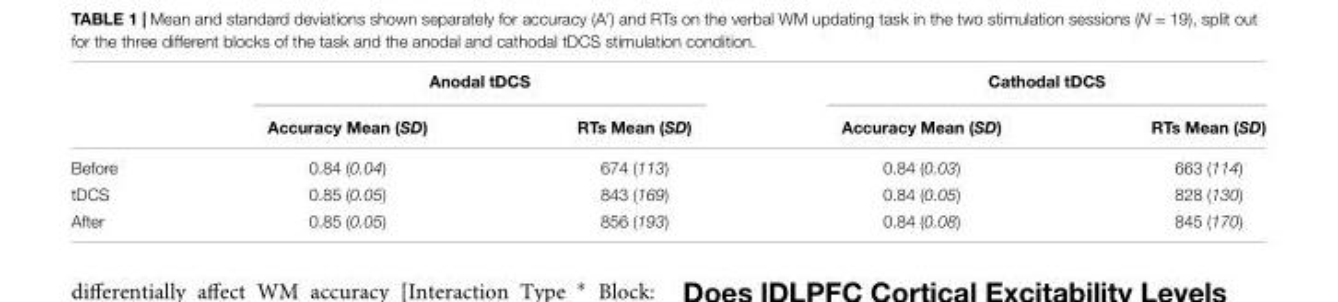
<table><thead><tr><td rowspan="2"></td><td colspan="2">Anodal tDCS</td><td colspan="2">Cathodal tDCS</td></tr><tr><td>Accuracy Mean (SD)</td><td>RTs Mean (SD)</td><td>Accuracy Mean (SD)</td><td>RTs Mean (SD)</td></tr></thead><tbody><tr><td>Before</td><td>0.84 (0.04)</td><td>674 (113)</td><td>0.84 (0.03)</td><td>663 (114)</td></tr><tr><td>tDCS</td><td>0.85 (0.05)</td><td>843 (169)</td><td>0.84 (0.05)</td><td>828 (130)</td></tr><tr><td>After</td><td>0.85 (0.05)</td><td>856 (193)</td><td>0.84 (0.08)</td><td>845 (170)</td></tr></tbody></table>